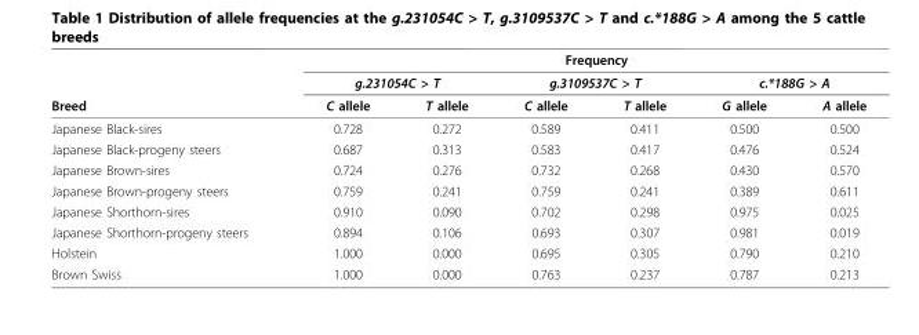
<table><thead><tr><td rowspan="3">Breed</td><td colspan="6">Frequency</td></tr><tr><td colspan="2">g.231054C &gt; T</td><td colspan="2">g.3109537C &gt; T</td><td colspan="2">c.*188G &gt; A</td></tr><tr><td>C allele</td><td>T allele</td><td>C allele</td><td>T allele</td><td>G allele</td><td>A allele</td></tr></thead><tbody><tr><td>Japanese Black-sires</td><td>0.728</td><td>0.272</td><td>0.589</td><td>0.411</td><td>0.500</td><td>0.500</td></tr><tr><td>Japanese Black-progeny steers</td><td>0.687</td><td>0.313</td><td>0.583</td><td>0.417</td><td>0.476</td><td>0.524</td></tr><tr><td>Japanese Brown-sires</td><td>0.724</td><td>0.276</td><td>0.732</td><td>0.268</td><td>0.430</td><td>0.570</td></tr><tr><td>Japanese Brown-progeny steers</td><td>0.759</td><td>0.241</td><td>0.759</td><td>0.241</td><td>0.389</td><td>0.611</td></tr><tr><td>Japanese Shorthorn-sires</td><td>0.910</td><td>0.090</td><td>0.702</td><td>0.298</td><td>0.975</td><td>0.025</td></tr><tr><td>Japanese Shorthorn-progeny steers</td><td>0.894</td><td>0.106</td><td>0.693</td><td>0.307</td><td>0.981</td><td>0.019</td></tr><tr><td>Holstein</td><td>1.000</td><td>0.000</td><td>0.695</td><td>0.305</td><td>0.790</td><td>0.210</td></tr><tr><td>Brown Swiss</td><td>1.000</td><td>0.000</td><td>0.763</td><td>0.237</td><td>0.787</td><td>0.213</td></tr></tbody></table>